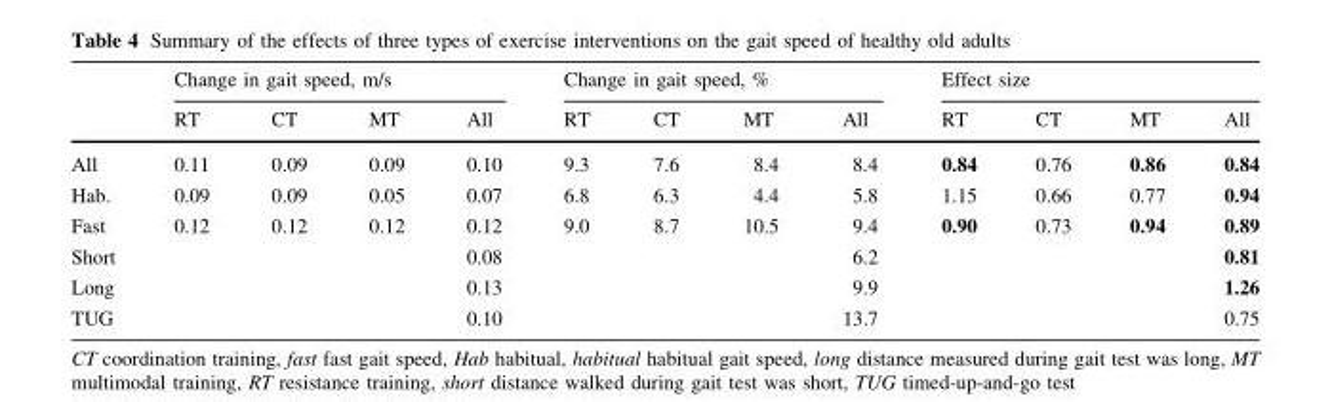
<table><thead><tr><td rowspan="2"></td><td colspan="4">Change in gait speed, m/s</td><td colspan="4">Change in gait speed, %</td><td colspan="4">Effect size</td></tr><tr><td>RT</td><td>CT</td><td>MT</td><td>All</td><td>RT</td><td>CT</td><td>MT</td><td>All</td><td>RT</td><td>CT</td><td>MT</td><td>All</td></tr></thead><tbody><tr><td>All</td><td>0.11</td><td>0.09</td><td>0.09</td><td>0.10</td><td>9.3</td><td>7.6</td><td>8.4</td><td>8.4</td><td>0.84</td><td>0.76</td><td>0.86</td><td>0.84</td></tr><tr><td>Hab.</td><td>0.09</td><td>0.09</td><td>0.05</td><td>0.07</td><td>6.8</td><td>6.3</td><td>4.4</td><td>5.8</td><td>1.15</td><td>0.66</td><td>0.77</td><td>0.94</td></tr><tr><td>Fast</td><td>0.12</td><td>0.12</td><td>0.12</td><td>0.12</td><td>9.0</td><td>8.7</td><td>10.5</td><td>9.4</td><td>0.90</td><td>0.73</td><td>0.94</td><td>0.89</td></tr><tr><td>Short</td><td></td><td></td><td></td><td>0.08</td><td></td><td></td><td></td><td>6.2</td><td></td><td></td><td></td><td>0.81</td></tr><tr><td>Long</td><td></td><td></td><td></td><td>0.13</td><td></td><td></td><td></td><td>9.9</td><td></td><td></td><td></td><td>1.26</td></tr><tr><td>TUG</td><td></td><td></td><td></td><td>0.10</td><td></td><td></td><td></td><td>13.7</td><td></td><td></td><td></td><td>0.75</td></tr></tbody></table>